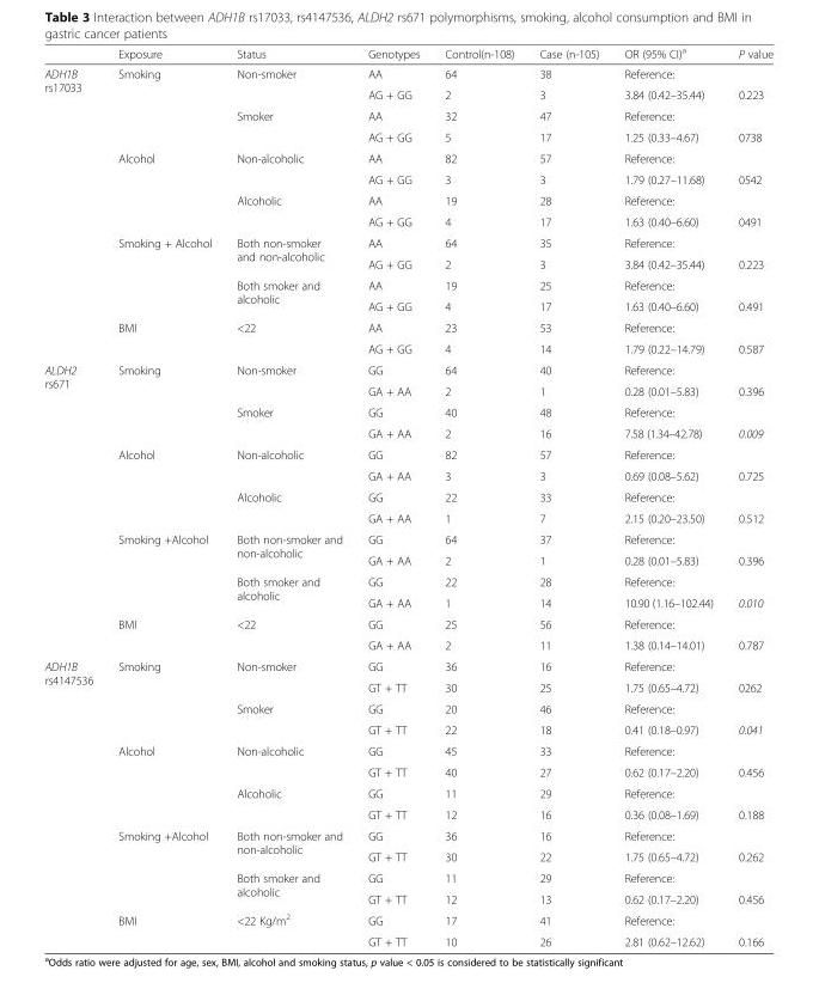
<table><thead><tr><td></td><td>Exposure</td><td>Status</td><td>Genotypes</td><td>Control(n-108)</td><td>Case (n-105)</td><td>OR (95% CI)<sup>a</sup></td><td>P value</td></tr></thead><tbody><tr><td rowspan="14">ADH1B rs17033</td><td rowspan="4">Smoking</td><td rowspan="2">Non-smoker</td><td>AA</td><td>64</td><td>38</td><td>Reference:</td><td></td></tr><tr><td>AG + GG</td><td>2</td><td>3</td><td>3.84 (0.42–35.44)</td><td>0.223</td></tr><tr><td rowspan="2">Smoker</td><td>AA</td><td>32</td><td>47</td><td>Reference:</td><td></td></tr><tr><td>AG + GG</td><td>5</td><td>17</td><td>1.25 (0.33–4.67)</td><td>0738</td></tr><tr><td rowspan="4">Alcohol</td><td rowspan="2">Non-alcoholic</td><td>AA</td><td>82</td><td>57</td><td>Reference:</td><td></td></tr><tr><td>AG + GG</td><td>3</td><td>3</td><td>1.79 (0.27–11.68)</td><td>0542</td></tr><tr><td rowspan="2">Alcoholic</td><td>AA</td><td>19</td><td>28</td><td>Reference:</td><td></td></tr><tr><td>AG + GG</td><td>4</td><td>17</td><td>1.63 (0.40–6.60)</td><td>0491</td></tr><tr><td rowspan="4">Smoking + Alcohol</td><td rowspan="2">Both non-smoker and non-alcoholic</td><td>AA</td><td>64</td><td>35</td><td>Reference:</td><td></td></tr><tr><td>AG + GG</td><td>2</td><td>3</td><td>3.84 (0.42–35.44)</td><td>0.223</td></tr><tr><td rowspan="2">Both smoker and alcoholic</td><td>AA</td><td>19</td><td>25</td><td>Reference:</td><td></td></tr><tr><td>AG + GG</td><td>4</td><td>17</td><td>1.63 (0.40–6.60)</td><td>0.491</td></tr><tr><td rowspan="2">BMI</td><td rowspan="2">&lt;22</td><td>AA</td><td>23</td><td>53</td><td>Reference:</td><td></td></tr><tr><td>AG + GG</td><td>4</td><td>14</td><td>1.79 (0.22–14.79)</td><td>0.587</td></tr><tr><td rowspan="14">ALDH2 rs671</td><td rowspan="4">Smoking</td><td rowspan="2">Non-smoker</td><td>GG</td><td>64</td><td>40</td><td>Reference:</td><td></td></tr><tr><td>GA + AA</td><td>2</td><td>1</td><td>0.28 (0.01–5.83)</td><td>0.396</td></tr><tr><td rowspan="2">Smoker</td><td>GG</td><td>40</td><td>48</td><td>Reference:</td><td></td></tr><tr><td>GA + AA</td><td>2</td><td>16</td><td>7.58 (1.34–42.78)</td><td>0.009</td></tr><tr><td rowspan="4">Alcohol</td><td rowspan="2">Non-alcoholic</td><td>GG</td><td>82</td><td>57</td><td>Reference:</td><td></td></tr><tr><td>GA + AA</td><td>3</td><td>3</td><td>0.69 (0.08–5.62)</td><td>0.725</td></tr><tr><td rowspan="2">Alcoholic</td><td>GG</td><td>22</td><td>33</td><td>Reference:</td><td></td></tr><tr><td>GA + AA</td><td>1</td><td>7</td><td>2.15 (0.20–23.50)</td><td>0.512</td></tr><tr><td rowspan="4">Smoking +Alcohol</td><td rowspan="2">Both non-smoker and non-alcoholic</td><td>GG</td><td>64</td><td>37</td><td>Reference:</td><td></td></tr><tr><td>GA + AA</td><td>2</td><td>1</td><td>0.28 (0.01–5.83)</td><td>0.396</td></tr><tr><td rowspan="2">Both smoker and alcoholic</td><td>GG</td><td>22</td><td>28</td><td>Reference:</td><td></td></tr><tr><td>GA + AA</td><td>1</td><td>14</td><td>10.90 (1.16–102.44)</td><td>0.010</td></tr><tr><td rowspan="2">BMI</td><td rowspan="2">&lt;22</td><td>GG</td><td>25</td><td>56</td><td>Reference:</td><td></td></tr><tr><td>GA + AA</td><td>2</td><td>11</td><td>1.38 (0.14–14.01)</td><td>0.787</td></tr><tr><td rowspan="14">ADH1B rs4147536</td><td rowspan="4">Smoking</td><td rowspan="2">Non-smoker</td><td>GG</td><td>36</td><td>16</td><td>Reference:</td><td></td></tr><tr><td>GT + TT</td><td>30</td><td>25</td><td>1.75 (0.65–4.72)</td><td>0262</td></tr><tr><td rowspan="2">Smoker</td><td>GG</td><td>20</td><td>46</td><td>Reference:</td><td></td></tr><tr><td>GT + TT</td><td>22</td><td>18</td><td>0.41 (0.18–0.97)</td><td>0.041</td></tr><tr><td rowspan="4">Alcohol</td><td rowspan="2">Non-alcoholic</td><td>GG</td><td>45</td><td>33</td><td>Reference:</td><td></td></tr><tr><td>GT + TT</td><td>40</td><td>27</td><td>0.62 (0.17–2.20)</td><td>0.456</td></tr><tr><td rowspan="2">Alcoholic</td><td>GG</td><td>11</td><td>29</td><td>Reference:</td><td></td></tr><tr><td>GT + TT</td><td>12</td><td>16</td><td>0.36 (0.08–1.69)</td><td>0.188</td></tr><tr><td rowspan="4">Smoking +Alcohol</td><td rowspan="2">Both non-smoker and non-alcoholic</td><td>GG</td><td>36</td><td>16</td><td>Reference:</td><td></td></tr><tr><td>GT + TT</td><td>30</td><td>22</td><td>1.75 (0.65–4.72)</td><td>0.262</td></tr><tr><td rowspan="2">Both smoker and alcoholic</td><td>GG</td><td>11</td><td>29</td><td>Reference:</td><td></td></tr><tr><td>GT + TT</td><td>12</td><td>13</td><td>0.62 (0.17–2.20)</td><td>0.456</td></tr><tr><td rowspan="2">BMI</td><td rowspan="2">&lt;22 Kg/m<sup>2</sup></td><td>GG</td><td>17</td><td>41</td><td>Reference:</td><td></td></tr><tr><td>GT + TT</td><td>10</td><td>26</td><td>2.81 (0.62–12.62)</td><td>0.166</td></tr></tbody></table>